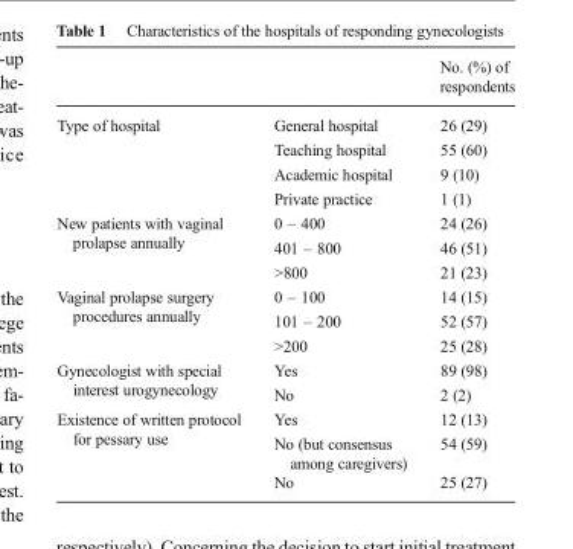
<table><thead><tr><td></td><td></td><td>No. (%) of respondents</td></tr></thead><tbody><tr><td rowspan="4">Type of hospital</td><td>General hospital</td><td>26 (29)</td></tr><tr><td>Teaching hospital</td><td>55 (60)</td></tr><tr><td>Academic hospital</td><td>9 (10)</td></tr><tr><td>Private practice</td><td>1 (1)</td></tr><tr><td rowspan="3">New patients with vaginal prolapse annually</td><td>0 – 400</td><td>24 (26)</td></tr><tr><td>401 – 800</td><td>46 (51)</td></tr><tr><td>&gt;800</td><td>21 (23)</td></tr><tr><td rowspan="3">Vaginal prolapse surgery procedures annually</td><td>0 – 100</td><td>14 (15)</td></tr><tr><td>101 – 200</td><td>52 (57)</td></tr><tr><td>&gt;200</td><td>25 (28)</td></tr><tr><td rowspan="2">Gynecologist with special interest urogynecology</td><td>Yes</td><td>89 (98)</td></tr><tr><td>No</td><td>2 (2)</td></tr><tr><td rowspan="3">Existence of written protocol for pessary use</td><td>Yes</td><td>12 (13)</td></tr><tr><td>No (but consensus among caregivers)</td><td>54 (59)</td></tr><tr><td>No</td><td>25 (27)</td></tr></tbody></table>